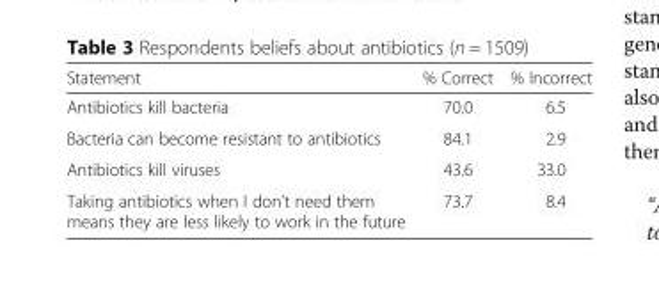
<table><thead><tr><td>Statement</td><td>% Correct</td><td>% Incorrect</td></tr></thead><tbody><tr><td>Antibiotics kill bacteria</td><td>70.0</td><td>6.5</td></tr><tr><td>Bacteria can become resistant to antibiotics</td><td>84.1</td><td>2.9</td></tr><tr><td>Antibiotics kill viruses</td><td>43.6</td><td>33.0</td></tr><tr><td>Taking antibiotics when I don’t need them means they are less likely to work in the future</td><td>73.7</td><td>8.4</td></tr></tbody></table>